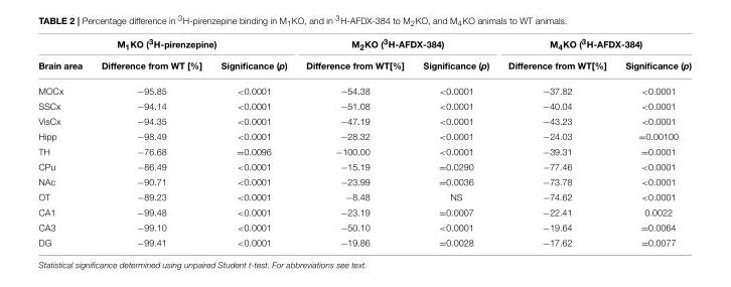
<table><thead><tr><td colspan="3">M<sub>1</sub>KO (<sup>3</sup>H-pirenzepine)</td><td colspan="2">M<sub>2</sub>KO (<sup>3</sup>H-AFDX-384)</td><td colspan="2">M<sub>4</sub>KO (<sup>3</sup>H-AFDX-384)</td></tr><tr><td>Brain area</td><td>Difference from WT [%]</td><td>Significance (p)</td><td>Difference from WT[%]</td><td>Significance (p)</td><td>Difference from WT[%]</td><td>Significance (p)</td></tr></thead><tbody><tr><td>MOCx</td><td>−95.85</td><td>&lt;0.0001</td><td>−54.38</td><td>&lt;0.0001</td><td>−37.82</td><td>&lt;0.0001</td></tr><tr><td>SSCx</td><td>−94.14</td><td>&lt;0.0001</td><td>−51.08</td><td>&lt;0.0001</td><td>−40.04</td><td>&lt;0.0001</td></tr><tr><td>VisCx</td><td>−94.35</td><td>&lt;0.0001</td><td>−47.19</td><td>&lt;0.0001</td><td>−43.23</td><td>&lt;0.0001</td></tr><tr><td>Hipp</td><td>−98.49</td><td>&lt;0.0001</td><td>−28.32</td><td>&lt;0.0001</td><td>−24.03</td><td>=0.00100</td></tr><tr><td>TH</td><td>−76.68</td><td>=0.0096</td><td>−100.00</td><td>&lt;0.0001</td><td>−39.31</td><td>=0.0001</td></tr><tr><td>CPu</td><td>−86.49</td><td>&lt;0.0001</td><td>−15.19</td><td>=0.0290</td><td>−77.46</td><td>&lt;0.0001</td></tr><tr><td>NAc</td><td>−90.71</td><td>&lt;0.0001</td><td>−23.99</td><td>=0.0036</td><td>−73.78</td><td>&lt;0.0001</td></tr><tr><td>OT</td><td>−89.23</td><td>&lt;0.0001</td><td>−8.48</td><td>NS</td><td>−74.62</td><td>&lt;0.0001</td></tr><tr><td>CA1</td><td>−99.48</td><td>&lt;0.0001</td><td>−23.19</td><td>=0.0007</td><td>−22.41</td><td>0.0022</td></tr><tr><td>CA3</td><td>−99.10</td><td>&lt;0.0001</td><td>−50.10</td><td>&lt;0.0001</td><td>−19.64</td><td>=0.0064</td></tr><tr><td>DG</td><td>−99.41</td><td>&lt;0.0001</td><td>−19.86</td><td>=0.0028</td><td>−17.62</td><td>=0.0077</td></tr></tbody></table>